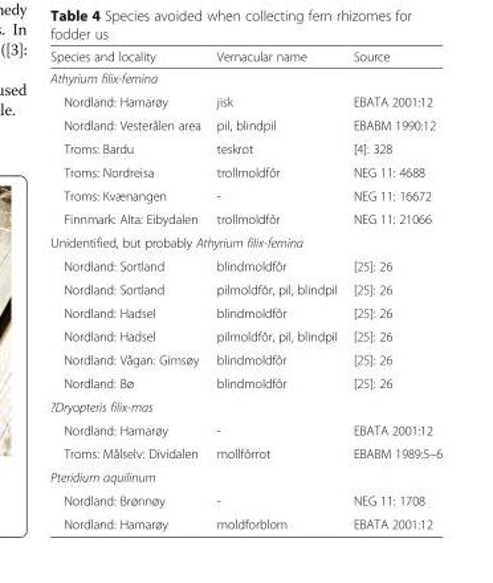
<table><thead><tr><td>Species and locality</td><td>Vernacular name</td><td>Source</td></tr></thead><tbody><tr><td colspan="3">Athyrium filix-femina</td></tr><tr><td>Nordland: Hamarøy</td><td>jisk</td><td>EBATA 2001:12</td></tr><tr><td>Nordland: Vesterålen area</td><td>pil, blindpil</td><td>EBABM 1990:12</td></tr><tr><td>Troms: Bardu</td><td>teskrot</td><td>[4]: 328</td></tr><tr><td>Troms: Nordreisa</td><td>trollmoldfôr</td><td>NEG 11: 4688</td></tr><tr><td>Troms: Kvænangen</td><td>-</td><td>NEG 11: 16672</td></tr><tr><td>Finnmark: Alta: Eibydalen</td><td>trollmoldfôr</td><td>NEG 11: 21066</td></tr><tr><td colspan="3">Unidentified, but probably Athyrium filix-femina</td></tr><tr><td>Nordland: Sortland</td><td>blindmoldfôr</td><td>[25]: 26</td></tr><tr><td>Nordland: Sortland</td><td>pilmoldfôr, pil, blindpil</td><td>[25]: 26</td></tr><tr><td>Nordland: Hadsel</td><td>blindmoldfôr</td><td>[25]: 26</td></tr><tr><td>Nordland: Hadsel</td><td>pilmoldfôr, pil, blindpil</td><td>[25]: 26</td></tr><tr><td>Nordland: Vågan: Gimsøy</td><td>blindmoldfôr</td><td>[25]: 26</td></tr><tr><td>Nordland: Bø</td><td>blindmoldfôr</td><td>[25]: 26</td></tr><tr><td colspan="3">?Dryopteris filix-mas</td></tr><tr><td>Nordland: Hamarøy</td><td>-</td><td>EBATA 2001:12</td></tr><tr><td>Troms: Målselv: Dividalen</td><td>mollfôrrot</td><td>EBABM 1989:5–6</td></tr><tr><td colspan="3">Pteridium aquilinum</td></tr><tr><td>Nordland: Brønnøy</td><td>-</td><td>NEG 11: 1708</td></tr><tr><td>Nordland: Hamarøy</td><td>moldforblom</td><td>EBATA 2001:12</td></tr></tbody></table>